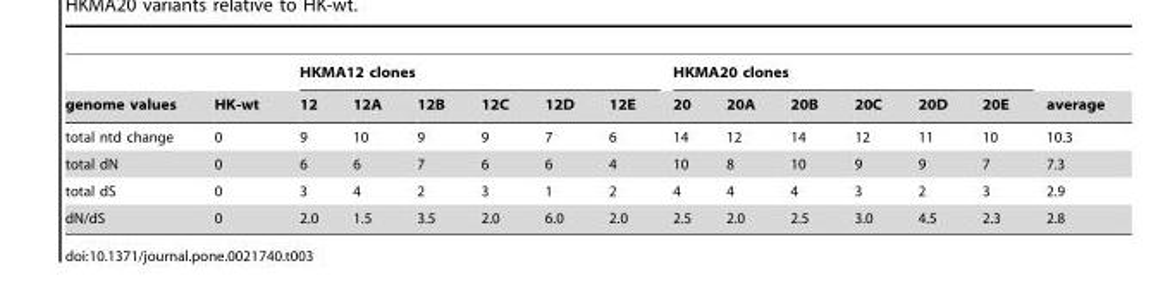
<table><thead><tr><td rowspan="2">genome values</td><td rowspan="2">HK-wt</td><td colspan="6">HKMA12 clones</td><td colspan="6">HKMA20 clones</td><td rowspan="2">average</td></tr><tr><td>12</td><td>12A</td><td>12B</td><td>12C</td><td>12D</td><td>12E</td><td>20</td><td>20A</td><td>20B</td><td>20C</td><td>20D</td><td>20E</td></tr></thead><tbody><tr><td>total ntd change</td><td>0</td><td>9</td><td>10</td><td>9</td><td>9</td><td>7</td><td>6</td><td>14</td><td>12</td><td>14</td><td>12</td><td>11</td><td>10</td><td>10.3</td></tr><tr><td>total dN</td><td>0</td><td>6</td><td>6</td><td>7</td><td>6</td><td>6</td><td>4</td><td>10</td><td>8</td><td>10</td><td>9</td><td>9</td><td>7</td><td>7.3</td></tr><tr><td>total dS</td><td>0</td><td>3</td><td>4</td><td>2</td><td>3</td><td>1</td><td>2</td><td>4</td><td>4</td><td>4</td><td>3</td><td>2</td><td>3</td><td>2.9</td></tr><tr><td>dN/dS</td><td>0</td><td>2.0</td><td>1.5</td><td>3.5</td><td>2.0</td><td>6.0</td><td>2.0</td><td>2.5</td><td>2.0</td><td>2.5</td><td>3.0</td><td>4.5</td><td>2.3</td><td>2.8</td></tr></tbody></table>